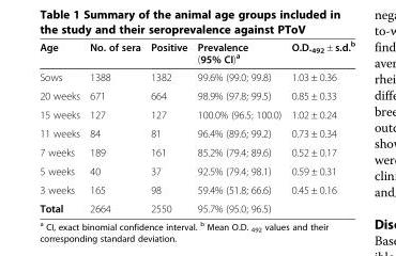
<table><thead><tr><td>Age</td><td>No. of sera</td><td>Positive</td><td>Prevalence (95% CI)<sup>a</sup></td><td>O.D.<sub>492</sub> ± s.d.<sup>b</sup></td></tr></thead><tbody><tr><td>Sows</td><td>1388</td><td>1382</td><td>99.6% (99.0; 99.8)</td><td>1.03 ± 0.36</td></tr><tr><td>20 weeks</td><td>671</td><td>664</td><td>98.9% (97.8; 99.5)</td><td>0.85 ± 0.33</td></tr><tr><td>15 weeks</td><td>127</td><td>127</td><td>100.0% (96.5; 100.0)</td><td>1.02 ± 0.24</td></tr><tr><td>11 weeks</td><td>84</td><td>81</td><td>96.4% (89.6; 99.2)</td><td>0.73 ± 0.34</td></tr><tr><td>7 weeks</td><td>189</td><td>161</td><td>85.2% (79.4; 89.6)</td><td>0.52 ± 0.17</td></tr><tr><td>5 weeks</td><td>40</td><td>37</td><td>92.5% (79.4; 98.1)</td><td>0.59 ± 0.31</td></tr><tr><td>3 weeks</td><td>165</td><td>98</td><td>59.4% (51.8; 66.6)</td><td>0.45 ± 0.16</td></tr><tr><td>Total</td><td>2664</td><td>2550</td><td>95.7% (95.0; 96.5)</td><td></td></tr></tbody></table>